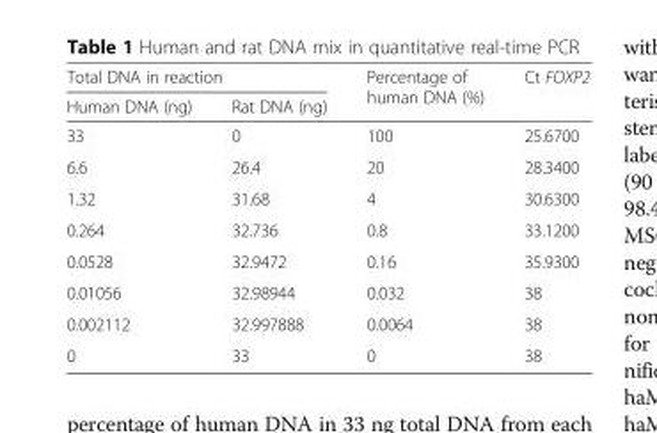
<table><thead><tr><td colspan="2">Total DNA in reaction</td><td rowspan="2">Percentage of human DNA (%)</td><td rowspan="2">Ct FOXP2</td></tr><tr><td>Human DNA (ng)</td><td>Rat DNA (ng)</td></tr></thead><tbody><tr><td>33</td><td>0</td><td>100</td><td>25.6700</td></tr><tr><td>6.6</td><td>26.4</td><td>20</td><td>28.3400</td></tr><tr><td>1.32</td><td>31.68</td><td>4</td><td>30.6300</td></tr><tr><td>0.264</td><td>32.736</td><td>0.8</td><td>33.1200</td></tr><tr><td>0.0528</td><td>32.9472</td><td>0.16</td><td>35.9300</td></tr><tr><td>0.01056</td><td>32.98944</td><td>0.032</td><td>38</td></tr><tr><td>0.002112</td><td>32.997888</td><td>0.0064</td><td>38</td></tr><tr><td>0</td><td>33</td><td>0</td><td>38</td></tr></tbody></table>